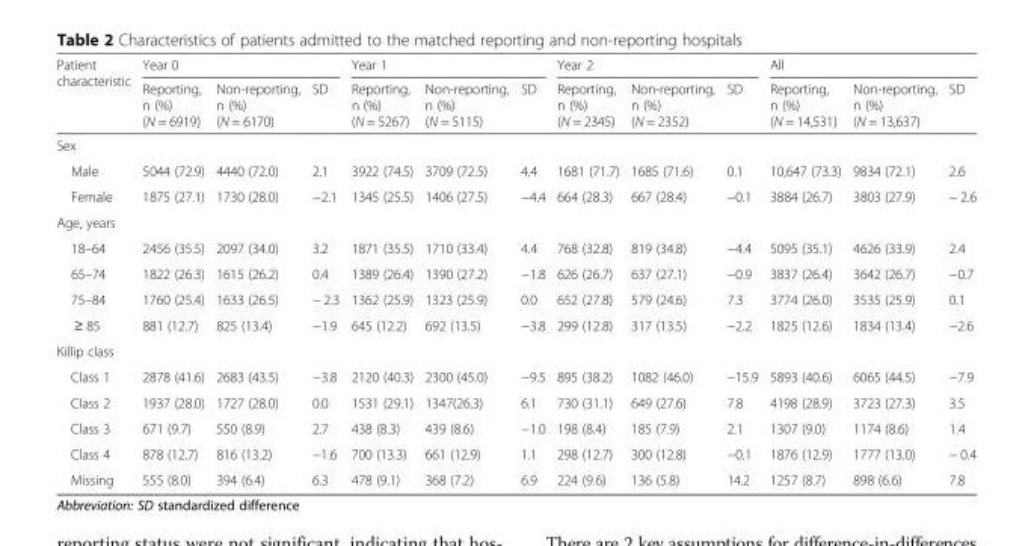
<table><thead><tr><td rowspan="2">Patient characteristic</td><td colspan="3">Year 0</td><td colspan="3">Year 1</td><td colspan="3">Year 2</td><td colspan="3">All</td></tr><tr><td>Reporting, n (%) (N = 6919)</td><td>Non-reporting, n (%) (N = 6170)</td><td>SD</td><td>Reporting, n (%) (N = 5267)</td><td>Non-reporting, n (%) (N = 5115)</td><td>SD</td><td>Reporting, n (%) (N = 2345)</td><td>Non-reporting, n (%) (N = 2352)</td><td>SD</td><td>Reporting, n (%) (N = 14,531)</td><td>Non-reporting, n (%) (N = 13,637)</td><td>SD</td></tr></thead><tbody><tr><td colspan="13">Sex</td></tr><tr><td>Male</td><td>5044 (72.9)</td><td>4440 (72.0)</td><td>2.1</td><td>3922 (74.5)</td><td>3709 (72.5)</td><td>4.4</td><td>1681 (71.7)</td><td>1685 (71.6)</td><td>0.1</td><td>10,647 (73.3)</td><td>9834 (72.1)</td><td>2.6</td></tr><tr><td>Female</td><td>1875 (27.1)</td><td>1730 (28.0)</td><td>−2.1</td><td>1345 (25.5)</td><td>1406 (27.5)</td><td>−4.4</td><td>664 (28.3)</td><td>667 (28.4)</td><td>−0.1</td><td>3884 (26.7)</td><td>3803 (27.9)</td><td>− 2.6</td></tr><tr><td colspan="13">Age, years</td></tr><tr><td>18–64</td><td>2456 (35.5)</td><td>2097 (34.0)</td><td>3.2</td><td>1871 (35.5)</td><td>1710 (33.4)</td><td>4.4</td><td>768 (32.8)</td><td>819 (34.8)</td><td>−4.4</td><td>5095 (35.1)</td><td>4626 (33.9)</td><td>2.4</td></tr><tr><td>65–74</td><td>1822 (26.3)</td><td>1615 (26.2)</td><td>0.4</td><td>1389 (26.4)</td><td>1390 (27.2)</td><td>−1.8</td><td>626 (26.7)</td><td>637 (27.1)</td><td>−0.9</td><td>3837 (26.4)</td><td>3642 (26.7)</td><td>−0.7</td></tr><tr><td>75–84</td><td>1760 (25.4)</td><td>1633 (26.5)</td><td>− 2.3</td><td>1362 (25.9)</td><td>1323 (25.9)</td><td>0.0</td><td>652 (27.8)</td><td>579 (24.6)</td><td>7.3</td><td>3774 (26.0)</td><td>3535 (25.9)</td><td>0.1</td></tr><tr><td>≥ 85</td><td>881 (12.7)</td><td>825 (13.4)</td><td>−1.9</td><td>645 (12.2)</td><td>692 (13.5)</td><td>−3.8</td><td>299 (12.8)</td><td>317 (13.5)</td><td>−2.2</td><td>1825 (12.6)</td><td>1834 (13.4)</td><td>−2.6</td></tr><tr><td colspan="13">Killip class</td></tr><tr><td>Class 1</td><td>2878 (41.6)</td><td>2683 (43.5)</td><td>−3.8</td><td>2120 (40.3)</td><td>2300 (45.0)</td><td>−9.5</td><td>895 (38.2)</td><td>1082 (46.0)</td><td>−15.9</td><td>5893 (40.6)</td><td>6065 (44.5)</td><td>−7.9</td></tr><tr><td>Class 2</td><td>1937 (28.0)</td><td>1727 (28.0)</td><td>0.0</td><td>1531 (29.1)</td><td>1347(26.3)</td><td>6.1</td><td>730 (31.1)</td><td>649 (27.6)</td><td>7.8</td><td>4198 (28.9)</td><td>3723 (27.3)</td><td>3.5</td></tr><tr><td>Class 3</td><td>671 (9.7)</td><td>550 (8.9)</td><td>2.7</td><td>438 (8.3)</td><td>439 (8.6)</td><td>−1.0</td><td>198 (8.4)</td><td>185 (7.9)</td><td>2.1</td><td>1307 (9.0)</td><td>1174 (8.6)</td><td>1.4</td></tr><tr><td>Class 4</td><td>878 (12.7)</td><td>816 (13.2)</td><td>−1.6</td><td>700 (13.3)</td><td>661 (12.9)</td><td>1.1</td><td>298 (12.7)</td><td>300 (12.8)</td><td>−0.1</td><td>1876 (12.9)</td><td>1777 (13.0)</td><td>− 0.4</td></tr><tr><td>Missing</td><td>555 (8.0)</td><td>394 (6.4)</td><td>6.3</td><td>478 (9.1)</td><td>368 (7.2)</td><td>6.9</td><td>224 (9.6)</td><td>136 (5.8)</td><td>14.2</td><td>1257 (8.7)</td><td>898 (6.6)</td><td>7.8</td></tr></tbody></table>